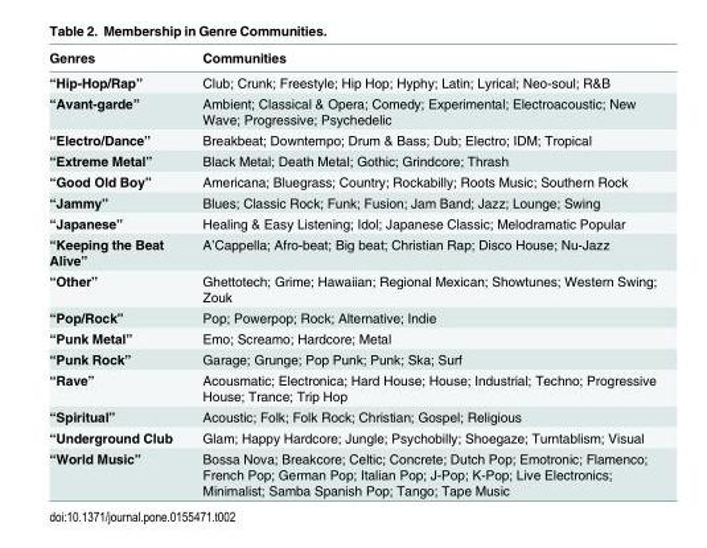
<table><thead><tr><td>Genres</td><td>Communities</td></tr></thead><tbody><tr><td>“Hip-Hop/Rap”</td><td>Club; Crunk; Freestyle; Hip Hop; Hyphy; Latin; Lyrical; Neo-soul; R&amp;B</td></tr><tr><td>“Avant-garde”</td><td>Ambient; Classical &amp; Opera; Comedy; Experimental; Electroacoustic; New Wave; Progressive; Psychedelic</td></tr><tr><td>“Electro/Dance”</td><td>Breakbeat; Downtempo; Drum &amp; Bass; Dub; Electro; IDM; Tropical</td></tr><tr><td>“Extreme Metal”</td><td>Black Metal; Death Metal; Gothic; Grindcore; Thrash</td></tr><tr><td>“Good Old Boy”</td><td>Americana; Bluegrass; Country; Rockabilly; Roots Music; Southern Rock</td></tr><tr><td>“Jammy”</td><td>Blues; Classic Rock; Funk; Fusion; Jam Band; Jazz; Lounge; Swing</td></tr><tr><td>“Japanese”</td><td>Healing &amp; Easy Listening; Idol; Japanese Classic; Melodramatic Popular</td></tr><tr><td>“Keeping the Beat Alive”</td><td>A’Cappella; Afro-beat; Big beat; Christian Rap; Disco House; Nu-Jazz</td></tr><tr><td>“Other”</td><td>Ghettotech; Grime; Hawaiian; Regional Mexican; Showtunes; Western Swing; Zouk</td></tr><tr><td>“Pop/Rock”</td><td>Pop; Powerpop; Rock; Alternative; Indie</td></tr><tr><td>“Punk Metal”</td><td>Emo; Screamo; Hardcore; Metal</td></tr><tr><td>“Punk Rock”</td><td>Garage; Grunge; Pop Punk; Punk; Ska; Surf</td></tr><tr><td>“Rave”</td><td>Acousmatic; Electronica; Hard House; House; Industrial; Techno; Progressive House; Trance; Trip Hop</td></tr><tr><td>“Spiritual”</td><td>Acoustic; Folk; Folk Rock; Christian; Gospel; Religious</td></tr><tr><td>“Underground Club</td><td>Glam; Happy Hardcore; Jungle; Psychobilly; Shoegaze; Turntablism; Visual</td></tr><tr><td>“World Music”</td><td>Bossa Nova; Breakcore; Celtic; Concrete; Dutch Pop; Emotronic; Flamenco; French Pop; German Pop; Italian Pop; J-Pop; K-Pop; Live Electronics; Minimalist; Samba Spanish Pop; Tango; Tape Music</td></tr></tbody></table>